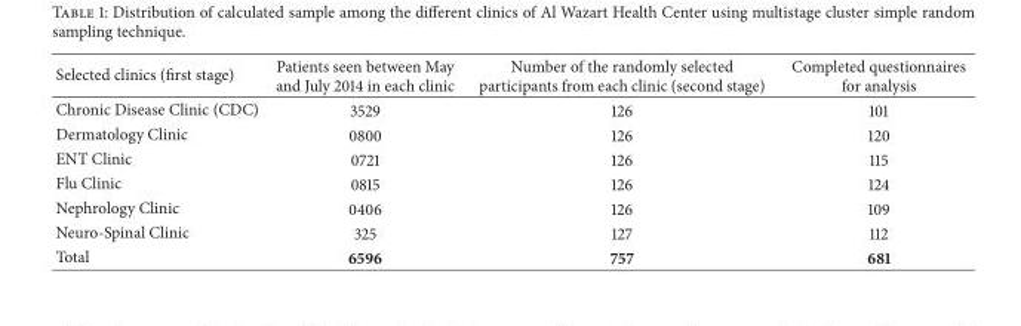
<table><thead><tr><td>Selected clinics (first stage)</td><td>Patients seen between May and July 2014 in each clinic</td><td>Number of the randomly selected participants from each clinic (second stage)</td><td>Completed questionnaires for analysis</td></tr></thead><tbody><tr><td>Chronic Disease Clinic (CDC)</td><td>3529</td><td>126</td><td>101</td></tr><tr><td>Dermatology Clinic</td><td>0800</td><td>126</td><td>120</td></tr><tr><td>ENT Clinic</td><td>0721</td><td>126</td><td>115</td></tr><tr><td>Flu Clinic</td><td>0815</td><td>126</td><td>124</td></tr><tr><td>Nephrology Clinic</td><td>0406</td><td>126</td><td>109</td></tr><tr><td>Neuro-Spinal Clinic</td><td>325</td><td>127</td><td>112</td></tr><tr><td>Total</td><td>6596</td><td>757</td><td>681</td></tr></tbody></table>